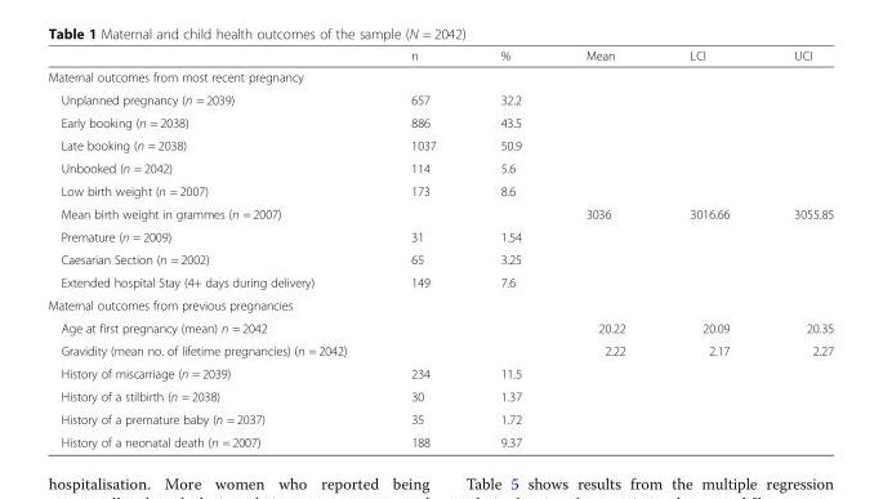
<table><thead><tr><td></td><td>n</td><td>%</td><td>Mean</td><td>LCI</td><td>UCI</td></tr></thead><tbody><tr><td colspan="6">Maternal outcomes from most recent pregnancy</td></tr><tr><td>Unplanned pregnancy (n = 2039)</td><td>657</td><td>32.2</td><td></td><td></td><td></td></tr><tr><td>Early booking (n = 2038)</td><td>886</td><td>43.5</td><td></td><td></td><td></td></tr><tr><td>Late booking (n = 2038)</td><td>1037</td><td>50.9</td><td></td><td></td><td></td></tr><tr><td>Unbooked (n = 2042)</td><td>114</td><td>5.6</td><td></td><td></td><td></td></tr><tr><td>Low birth weight (n = 2007)</td><td>173</td><td>8.6</td><td></td><td></td><td></td></tr><tr><td>Mean birth weight in grammes (n = 2007)</td><td></td><td></td><td>3036</td><td>3016.66</td><td>3055.85</td></tr><tr><td>Premature (n = 2009)</td><td>31</td><td>1.54</td><td></td><td></td><td></td></tr><tr><td>Caesarian Section (n = 2002)</td><td>65</td><td>3.25</td><td></td><td></td><td></td></tr><tr><td>Extended hospital Stay (4+ days during delivery)</td><td>149</td><td>7.6</td><td></td><td></td><td></td></tr><tr><td colspan="6">Maternal outcomes from previous pregnancies</td></tr><tr><td>Age at first pregnancy (mean) n = 2042</td><td></td><td></td><td>20.22</td><td>20.09</td><td>20.35</td></tr><tr><td>Gravidity (mean no. of lifetime pregnancies) (n = 2042)</td><td></td><td></td><td>2.22</td><td>2.17</td><td>2.27</td></tr><tr><td>History of miscarriage (n = 2039)</td><td>234</td><td>11.5</td><td></td><td></td><td></td></tr><tr><td>History of a stilbirth (n = 2038)</td><td>30</td><td>1.37</td><td></td><td></td><td></td></tr><tr><td>History of a premature baby (n = 2037)</td><td>35</td><td>1.72</td><td></td><td></td><td></td></tr><tr><td>History of a neonatal death (n = 2007)</td><td>188</td><td>9.37</td><td></td><td></td><td></td></tr></tbody></table>